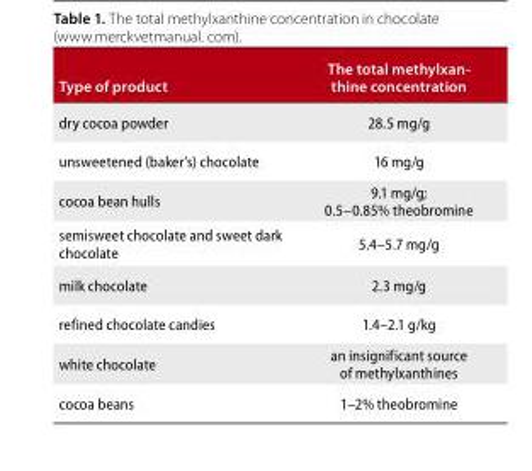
<table><thead><tr><td>Type of product</td><td>The total methylxan- thine concentration</td></tr></thead><tbody><tr><td>dry cocoa powder</td><td>28.5 mg/g</td></tr><tr><td>unsweetened (baker’s) chocolate</td><td>16 mg/g</td></tr><tr><td>cocoa bean hulls</td><td>9.1 mg/g; 0.5–0.85% theobromine</td></tr><tr><td>semisweet chocolate and sweet dark chocolate</td><td>5.4–5.7 mg/g</td></tr><tr><td>milk chocolate</td><td>2.3 mg/g</td></tr><tr><td>refined chocolate candies</td><td>1.4–2.1 g/kg</td></tr><tr><td>white chocolate</td><td>an insignificant source of methylxanthines</td></tr><tr><td>cocoa beans</td><td>1–2% theobromine</td></tr></tbody></table>